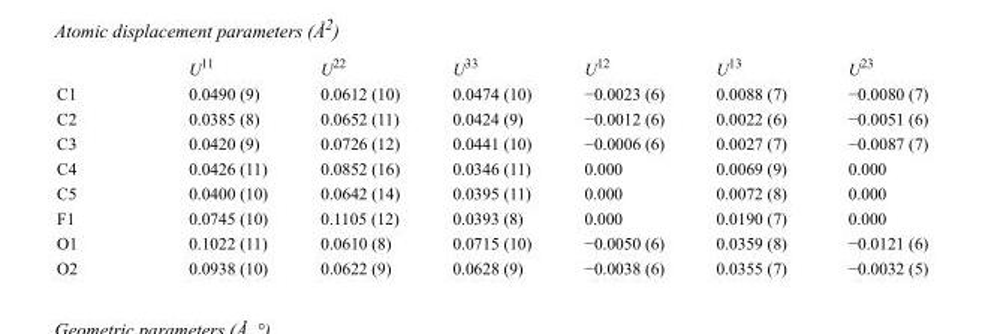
<table><thead><tr><td></td><td>U<sup>11</sup></td><td>U<sup>22</sup></td><td>U<sup>33</sup></td><td>U<sup>12</sup></td><td>U<sup>13</sup></td><td>U<sup>23</sup></td></tr></thead><tbody><tr><td>C1</td><td>0.0490 (9)</td><td>0.0612 (10)</td><td>0.0474 (10)</td><td>−0.0023 (6)</td><td>0.0088 (7)</td><td>−0.0080 (7)</td></tr><tr><td>C2</td><td>0.0385 (8)</td><td>0.0652 (11)</td><td>0.0424 (9)</td><td>−0.0012 (6)</td><td>0.0022 (6)</td><td>−0.0051 (6)</td></tr><tr><td>C3</td><td>0.0420 (9)</td><td>0.0726 (12)</td><td>0.0441 (10)</td><td>−0.0006 (6)</td><td>0.0027 (7)</td><td>−0.0087 (7)</td></tr><tr><td>C4</td><td>0.0426 (11)</td><td>0.0852 (16)</td><td>0.0346 (11)</td><td>0.000</td><td>0.0069 (9)</td><td>0.000</td></tr><tr><td>C5</td><td>0.0400 (10)</td><td>0.0642 (14)</td><td>0.0395 (11)</td><td>0.000</td><td>0.0072 (8)</td><td>0.000</td></tr><tr><td>F1</td><td>0.0745 (10)</td><td>0.1105 (12)</td><td>0.0393 (8)</td><td>0.000</td><td>0.0190 (7)</td><td>0.000</td></tr><tr><td>O1</td><td>0.1022 (11)</td><td>0.0610 (8)</td><td>0.0715 (10)</td><td>−0.0050 (6)</td><td>0.0359 (8)</td><td>−0.0121 (6)</td></tr><tr><td>O2</td><td>0.0938 (10)</td><td>0.0622 (9)</td><td>0.0628 (9)</td><td>−0.0038 (6)</td><td>0.0355 (7)</td><td>−0.0032 (5)</td></tr></tbody></table>